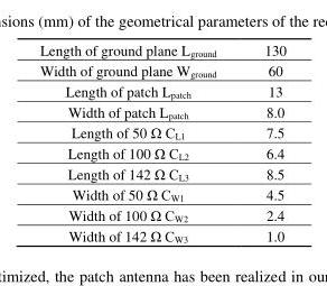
<table><tbody><tr><td>Length of ground plane L<sub>ground</sub></td><td>130</td></tr><tr><td>Width of ground plane W<sub>ground</sub></td><td>60</td></tr><tr><td>Length of patch L<sub>patch</sub></td><td>13</td></tr><tr><td>Width of patch L<sub>patch</sub></td><td>8.0</td></tr><tr><td>Length of 50 Ω C<sub>L1</sub></td><td>7.5</td></tr><tr><td>Length of 100 Ω C<sub>L2</sub></td><td>6.4</td></tr><tr><td>Length of 142 Ω C<sub>L3</sub></td><td>8.5</td></tr><tr><td>Width of 50 Ω C<sub>W1</sub></td><td>4.5</td></tr><tr><td>Width of 100 Ω C<sub>W2</sub></td><td>2.4</td></tr><tr><td>Width of 142 Ω C<sub>W3</sub></td><td>1.0</td></tr></tbody></table>